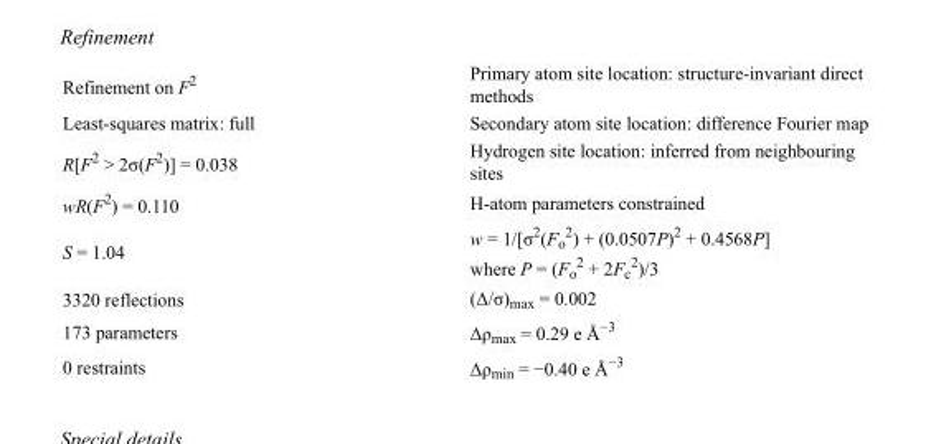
<table><tbody><tr><td>Refinement on F<sup>2</sup></td><td>Primary atom site location: structure-invariant direct methods</td></tr><tr><td>Least-squares matrix: full</td><td>Secondary atom site location: difference Fourier map</td></tr><tr><td>R[F<sup>2</sup> &gt; 2σ(F<sup>2</sup>)] = 0.038</td><td>Hydrogen site location: inferred from neighbouring sites</td></tr><tr><td>wR(F<sup>2</sup>) = 0.110</td><td>H-atom parameters constrained</td></tr><tr><td>S = 1.04</td><td>w = 1/[σ<sup>2</sup>(F<sub>o</sub> <sup>2</sup>) + (0.0507P)<sup>2</sup> + 0.4568P] where P = (F<sub>o</sub> <sup>2</sup> + 2F<sub>c</sub> <sup>2</sup>)/3</td></tr><tr><td>3320 reflections</td><td>(Δ/σ)<sub>max</sub> = 0.002</td></tr><tr><td>173 parameters</td><td>Δρ<sub>max</sub> = 0.29 e Å<sup>−3</sup></td></tr><tr><td>0 restraints</td><td>Δρ<sub>min</sub> = −0.40 e Å<sup>−3</sup></td></tr></tbody></table>